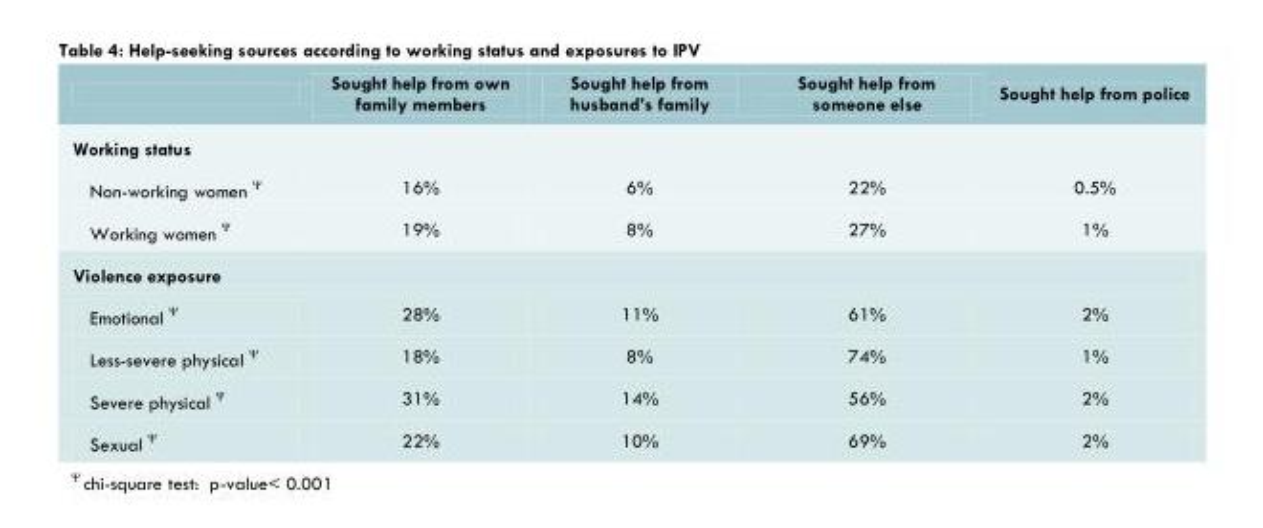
<table><thead><tr><td></td><td>Sought help from own family members</td><td>Sought help from husband’s family</td><td>Sought help from someone else</td><td>Sought help from police</td></tr></thead><tbody><tr><td colspan="5">Working status</td></tr><tr><td>Non-working women Ψ</td><td>16%</td><td>6%</td><td>22%</td><td>0.5%</td></tr><tr><td>Working women Ψ</td><td>19%</td><td>8%</td><td>27%</td><td>1%</td></tr><tr><td colspan="5">Violence exposure</td></tr><tr><td>Emotional Ψ</td><td>28%</td><td>11%</td><td>61%</td><td>2%</td></tr><tr><td>Less-severe physical Ψ</td><td>18%</td><td>8%</td><td>74%</td><td>1%</td></tr><tr><td>Severe physical Ψ</td><td>31%</td><td>14%</td><td>56%</td><td>2%</td></tr><tr><td>Sexual Ψ</td><td>22%</td><td>10%</td><td>69%</td><td>2%</td></tr></tbody></table>